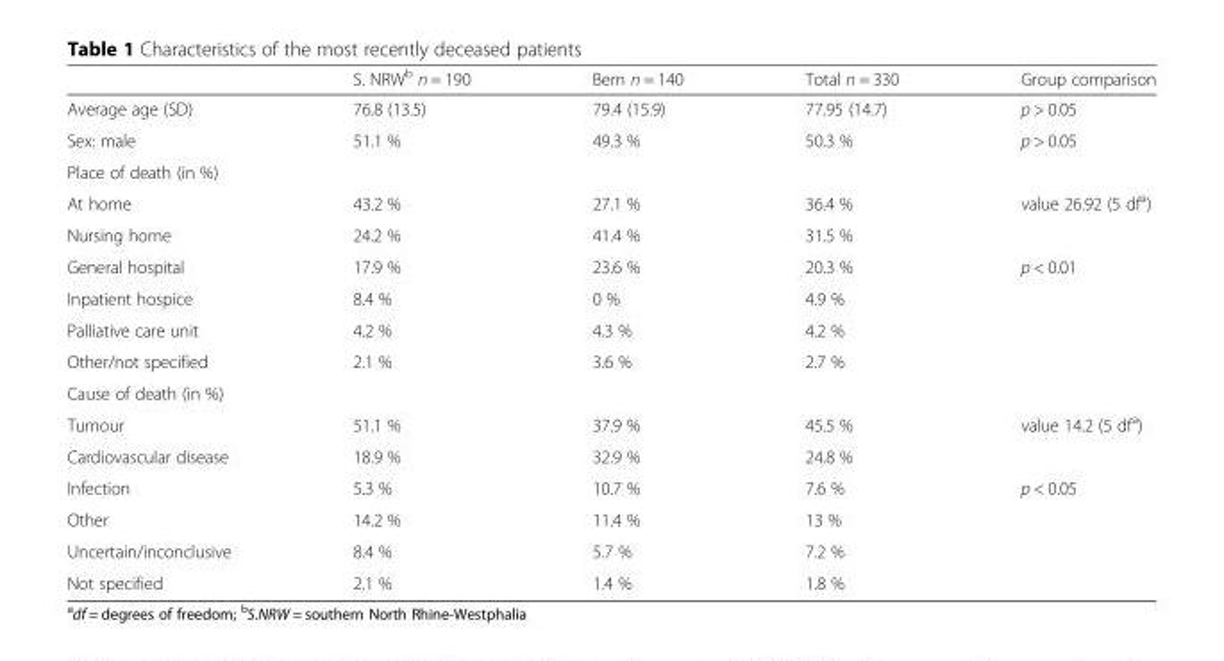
<table><thead><tr><td></td><td>S. NRW<sup>b</sup> n = 190</td><td>Bern n = 140</td><td>Total n = 330</td><td>Group comparison</td></tr></thead><tbody><tr><td>Average age (SD)</td><td>76.8 (13.5)</td><td>79.4 (15.9)</td><td>77.95 (14.7)</td><td>p &gt; 0.05</td></tr><tr><td>Sex: male</td><td>51.1 %</td><td>49.3 %</td><td>50.3 %</td><td>p &gt; 0.05</td></tr><tr><td colspan="5">Place of death (in %)</td></tr><tr><td>At home</td><td>43.2 %</td><td>27.1 %</td><td>36.4 %</td><td>value 26.92 (5 df<sup>a</sup>)</td></tr><tr><td>Nursing home</td><td>24.2 %</td><td>41.4 %</td><td>31.5 %</td><td></td></tr><tr><td>General hospital</td><td>17.9 %</td><td>23.6 %</td><td>20.3 %</td><td>p &lt; 0.01</td></tr><tr><td>Inpatient hospice</td><td>8.4 %</td><td>0 %</td><td>4.9 %</td><td></td></tr><tr><td>Palliative care unit</td><td>4.2 %</td><td>4.3 %</td><td>4.2 %</td><td></td></tr><tr><td>Other/not specified</td><td>2.1 %</td><td>3.6 %</td><td>2.7 %</td><td></td></tr><tr><td colspan="5">Cause of death (in %)</td></tr><tr><td>Tumour</td><td>51.1 %</td><td>37.9 %</td><td>45.5 %</td><td>value 14.2 (5 df<sup>a</sup>)</td></tr><tr><td>Cardiovascular disease</td><td>18.9 %</td><td>32.9 %</td><td>24.8 %</td><td></td></tr><tr><td>Infection</td><td>5.3 %</td><td>10.7 %</td><td>7.6 %</td><td>p &lt; 0.05</td></tr><tr><td>Other</td><td>14.2 %</td><td>11.4 %</td><td>13 %</td><td></td></tr><tr><td>Uncertain/inconclusive</td><td>8.4 %</td><td>5.7 %</td><td>7.2 %</td><td></td></tr><tr><td>Not specified</td><td>2.1 %</td><td>1.4 %</td><td>1.8 %</td><td></td></tr></tbody></table>